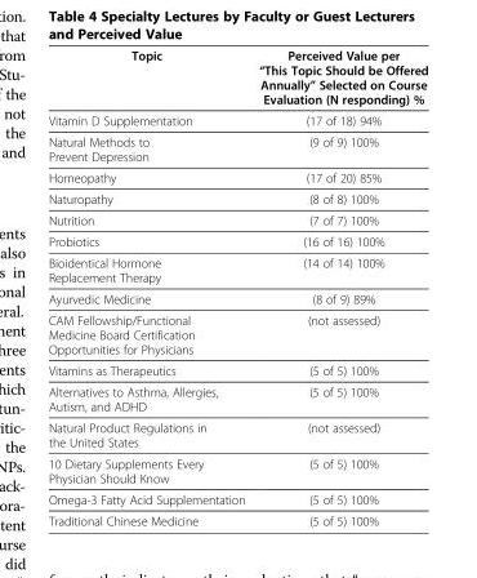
<table><thead><tr><td>Topic</td><td>Perceived Value per “This Topic Should be Offered Annually” Selected on Course Evaluation (N responding) %</td></tr></thead><tbody><tr><td>Vitamin D Supplementation</td><td>(17 of 18) 94%</td></tr><tr><td>Natural Methods to Prevent Depression</td><td>(9 of 9) 100%</td></tr><tr><td>Homeopathy</td><td>(17 of 20) 85%</td></tr><tr><td>Naturopathy</td><td>(8 of 8) 100%</td></tr><tr><td>Nutrition</td><td>(7 of 7) 100%</td></tr><tr><td>Probiotics</td><td>(16 of 16) 100%</td></tr><tr><td>Bioidentical Hormone Replacement Therapy</td><td>(14 of 14) 100%</td></tr><tr><td>Ayurvedic Medicine</td><td>(8 of 9) 89%</td></tr><tr><td>CAM Fellowship/Functional Medicine Board Certification Opportunities for Physicians</td><td>(not assessed)</td></tr><tr><td>Vitamins as Therapeutics</td><td>(5 of 5) 100%</td></tr><tr><td>Alternatives to Asthma, Allergies, Autism, and ADHD</td><td>(5 of 5) 100%</td></tr><tr><td>Natural Product Regulations in the United States</td><td>(not assessed)</td></tr><tr><td>10 Dietary Supplements Every Physician Should Know</td><td>(5 of 5) 100%</td></tr><tr><td>Omega-3 Fatty Acid Supplementation</td><td>(5 of 5) 100%</td></tr><tr><td>Traditional Chinese Medicine</td><td>(5 of 5) 100%</td></tr></tbody></table>